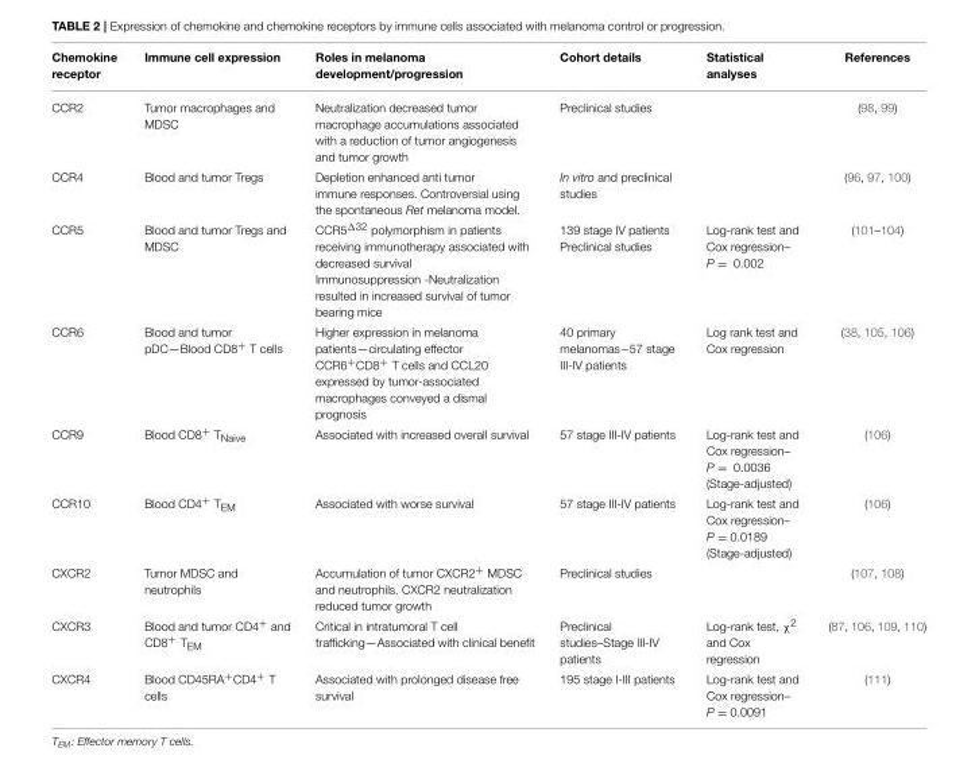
<table><thead><tr><td>Chemokine receptor</td><td>Immune cell expression</td><td>Roles in melanoma development/progression</td><td>Cohort details</td><td>Statistical analyses</td><td>References</td></tr></thead><tbody><tr><td>CCR2</td><td>Tumor macrophages and MDSC</td><td>Neutralization decreased tumor macrophage accumulations associated with a reduction of tumor angiogenesis and tumor growth</td><td>Preclinical studies</td><td></td><td>(98, 99)</td></tr><tr><td>CCR4</td><td>Blood and tumor Tregs</td><td>Depletion enhanced anti tumor immune responses. Controversial using the spontaneous Ret melanoma model.</td><td>In vitro and preclinical studies</td><td></td><td>(96, 97, 100)</td></tr><tr><td>CCR5</td><td>Blood and tumor Tregs and MDSC</td><td>CCR5<sup>Δ32</sup> polymorphism in patients receiving immunotherapy associated with decreased survival Immunosuppression -Neutralization resulted in increased survival of tumor bearing mice</td><td>139 stage IV patients Preclinical studies</td><td>Log-rank test and Cox regression– P = 0.002</td><td>(101–104)</td></tr><tr><td>CCR6</td><td>Blood and tumor pDC—Blood CD8<sup>+</sup> T cells</td><td>Higher expression in melanoma patients—circulating effector CCR6<sup>+</sup>CD8<sup>+</sup> T cells and CCL20 expressed by tumor-associated macrophages conveyed a dismal prognosis</td><td>40 primary melanomas−57 stage III-IV patients</td><td>Log rank test and Cox regression</td><td>(38, 105, 106)</td></tr><tr><td>CCR9</td><td>Blood CD8<sup>+</sup> T<sub>Naive</sub></td><td>Associated with increased overall survival</td><td>57 stage III-IV patients</td><td>Log-rank test and Cox regression– P = 0.0036 (Stage-adjusted)</td><td>(106)</td></tr><tr><td>CCR10</td><td>Blood CD4<sup>+</sup> T<sub>EM</sub></td><td>Associated with worse survival</td><td>57 stage III-IV patients</td><td>Log-rank test and Cox regression– P = 0.0189 (Stage-adjusted)</td><td>(106)</td></tr><tr><td>CXCR2</td><td>Tumor MDSC and neutrophils</td><td>Accumulation of tumor CXCR2<sup>+</sup> MDSC and neutrophils. CXCR2 neutralization reduced tumor growth</td><td>Preclinical studies</td><td></td><td>(107, 108)</td></tr><tr><td>CXCR3</td><td>Blood and tumor CD4<sup>+</sup> and CD8<sup>+</sup> T<sub>EM</sub></td><td>Critical in intratumoral T cell trafficking—Associated with clinical benefit</td><td>Preclinical studies–Stage III-IV patients</td><td>Log-rank test, χ<sup>2</sup> and Cox regression</td><td>(87, 106, 109, 110)</td></tr><tr><td>CXCR4</td><td>Blood CD45RA<sup>+</sup>CD4<sup>+</sup> T cells</td><td>Associated with prolonged disease free survival</td><td>195 stage I-III patients</td><td>Log-rank test and Cox regression– P = 0.0091</td><td>(111)</td></tr></tbody></table>